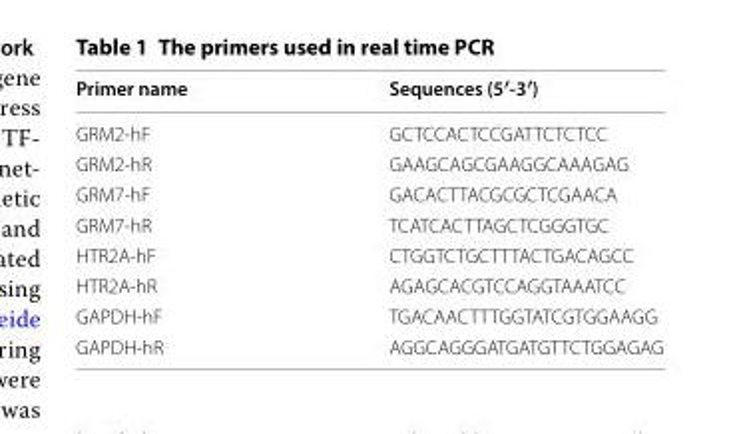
<table><thead><tr><td>Primer name</td><td>Sequences (5′‑3′)</td></tr></thead><tbody><tr><td>GRM2-hF</td><td>GCT CCA CTC CGA TTC TCT CC</td></tr><tr><td>GRM2-hR</td><td>GAA GCA GCG AAG GCA AAG AG</td></tr><tr><td>GRM7-hF</td><td>GAC ACT TAC GCG CTC GAA CA</td></tr><tr><td>GRM7-hR</td><td>TCA TCA CTT AGC TCG GGT GC</td></tr><tr><td>HTR2A-hF</td><td>CTG GTC TGC TTT ACT GAC AGCC</td></tr><tr><td>HTR2A-hR</td><td>AGA GCA CGT CCA GGT AAA TCC</td></tr><tr><td>GAPDH-hF</td><td>TGA CAA CTT TGG TAT CGT GGA AGG</td></tr><tr><td>GAPDH-hR</td><td>AGG CAG GGA TGA TGT TCT GGA GAG</td></tr></tbody></table>